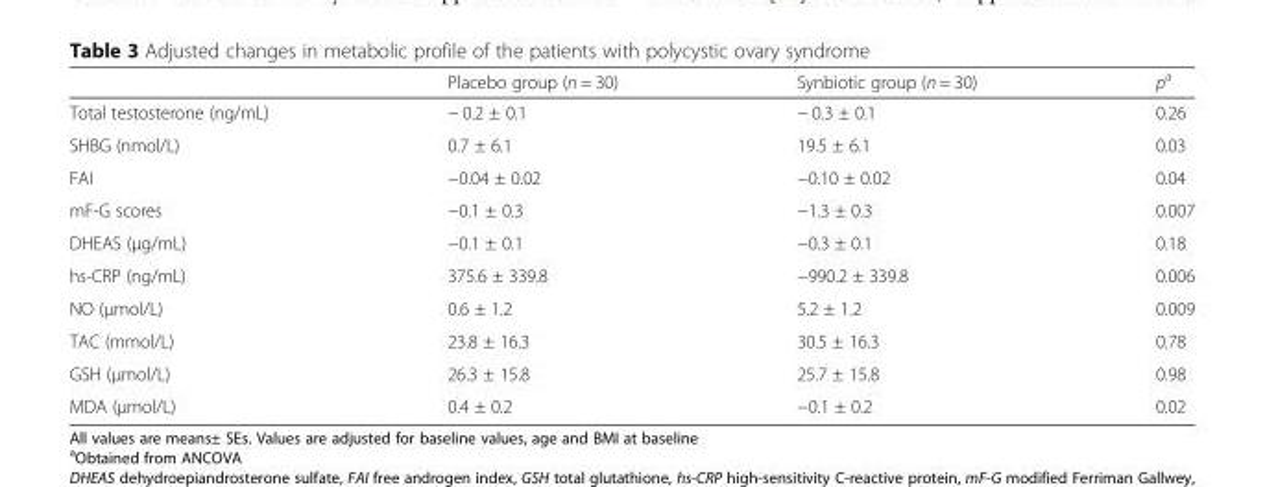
<table><thead><tr><td></td><td>Placebo group (n = 30)</td><td>Synbiotic group (n = 30)</td><td>p<sup>a</sup></td></tr></thead><tbody><tr><td>Total testosterone (ng/mL)</td><td>− 0.2 ± 0.1</td><td>− 0.3 ± 0.1</td><td>0.26</td></tr><tr><td>SHBG (nmol/L)</td><td>0.7 ± 6.1</td><td>19.5 ± 6.1</td><td>0.03</td></tr><tr><td>FAI</td><td>−0.04 ± 0.02</td><td>−0.10 ± 0.02</td><td>0.04</td></tr><tr><td>mF-G scores</td><td>−0.1 ± 0.3</td><td>−1.3 ± 0.3</td><td>0.007</td></tr><tr><td>DHEAS (μg/mL)</td><td>−0.1 ± 0.1</td><td>−0.3 ± 0.1</td><td>0.18</td></tr><tr><td>hs-CRP (ng/mL)</td><td>375.6 ± 339.8</td><td>−990.2 ± 339.8</td><td>0.006</td></tr><tr><td>NO (μmol/L)</td><td>0.6 ± 1.2</td><td>5.2 ± 1.2</td><td>0.009</td></tr><tr><td>TAC (mmol/L)</td><td>23.8 ± 16.3</td><td>30.5 ± 16.3</td><td>0.78</td></tr><tr><td>GSH (μmol/L)</td><td>26.3 ± 15.8</td><td>25.7 ± 15.8</td><td>0.98</td></tr><tr><td>MDA (μmol/L)</td><td>0.4 ± 0.2</td><td>−0.1 ± 0.2</td><td>0.02</td></tr></tbody></table>